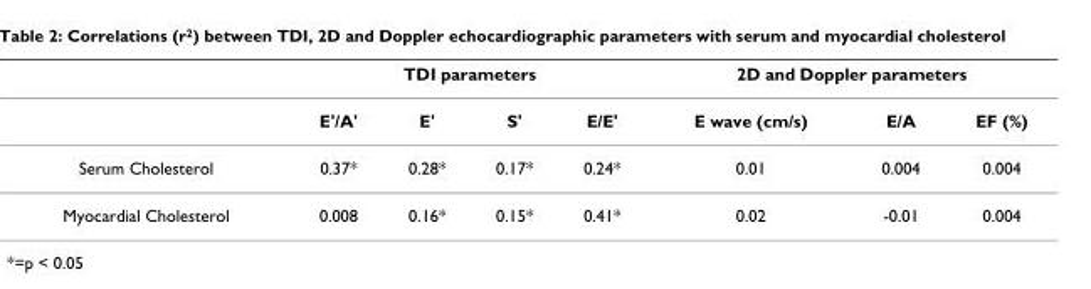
<table><thead><tr><td rowspan="2"></td><td colspan="4">TDI parameters</td><td colspan="3">2D and Doppler parameters</td></tr><tr><td>E&#x27;/A&#x27;</td><td>E&#x27;</td><td>S&#x27;</td><td>E/E&#x27;</td><td>E wave (cm/s)</td><td>E/A</td><td>EF (%)</td></tr></thead><tbody><tr><td>Serum Cholesterol</td><td>0.37*</td><td>0.28*</td><td>0.17*</td><td>0.24*</td><td>0.01</td><td>0.004</td><td>0.004</td></tr><tr><td>Myocardial Cholesterol</td><td>0.008</td><td>0.16*</td><td>0.15*</td><td>0.41*</td><td>0.02</td><td>-0.01</td><td>0.004</td></tr></tbody></table>